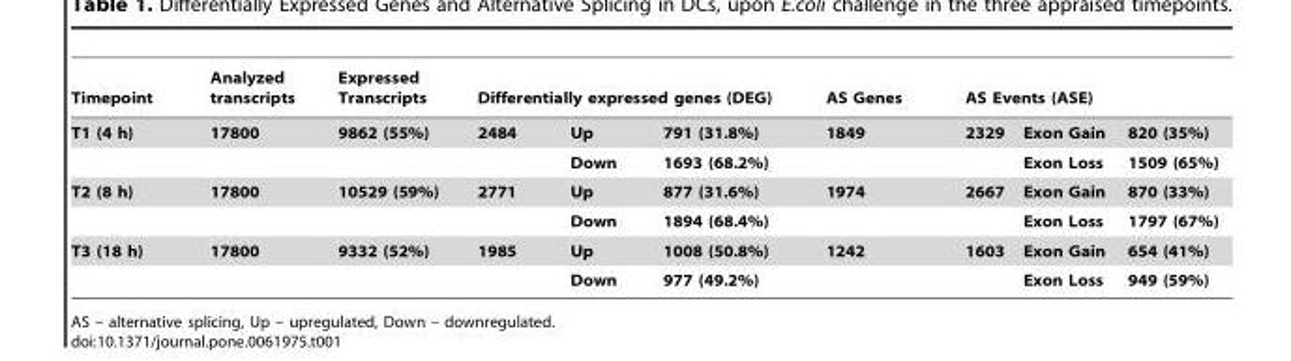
<table><thead><tr><td rowspan="2">Timepoint T1 (4 h)</td><td rowspan="2">Analyzed transcripts 17800</td><td rowspan="2">Expressed Transcripts 9862 (55%)</td><td colspan="3">Differentially expressed genes (DEG)</td><td rowspan="2">AS Genes 1849</td><td colspan="3">AS Events (ASE)</td></tr><tr><td>2484</td><td>Up</td><td>791 (31.8%)</td><td>2329</td><td>Exon Gain</td><td>820 (35%)</td></tr></thead><tbody><tr><td></td><td></td><td></td><td></td><td>Down</td><td>1693 (68.2%)</td><td></td><td></td><td>Exon Loss</td><td>1509 (65%)</td></tr><tr><td rowspan="2">T2 (8 h)</td><td>17800</td><td>10529 (59%)</td><td>2771</td><td>Up</td><td>877 (31.6%)</td><td>1974</td><td>2667</td><td>Exon Gain</td><td>870 (33%)</td></tr><tr><td></td><td></td><td></td><td>Down</td><td>1894 (68.4%)</td><td></td><td></td><td>Exon Loss</td><td>1797 (67%)</td></tr><tr><td rowspan="2">T3 (18 h)</td><td>17800</td><td>9332 (52%)</td><td>1985</td><td>Up</td><td>1008 (50.8%)</td><td>1242</td><td>1603</td><td>Exon Gain</td><td>654 (41%)</td></tr><tr><td></td><td></td><td></td><td>Down</td><td>977 (49.2%)</td><td></td><td></td><td>Exon Loss</td><td>949 (59%)</td></tr></tbody></table>